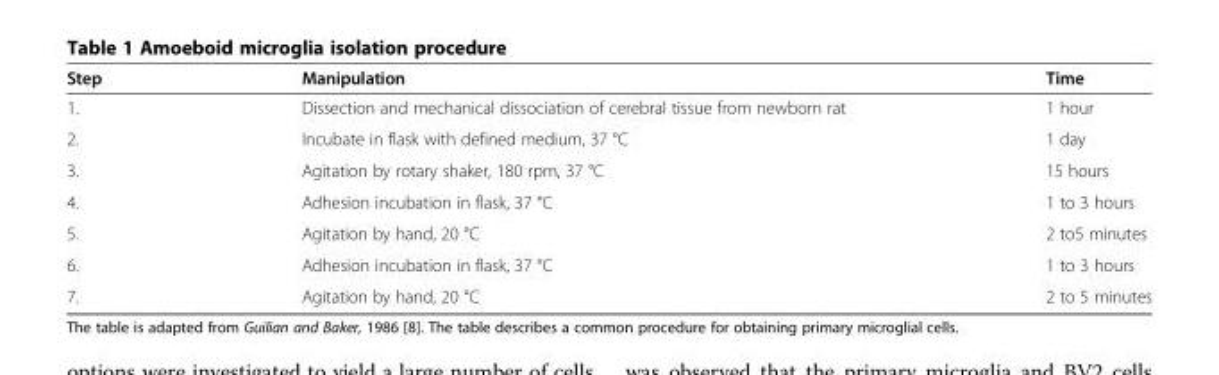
<table><thead><tr><td>Step</td><td>Manipulation</td><td>Time</td></tr></thead><tbody><tr><td>1.</td><td>Dissection and mechanical dissociation of cerebral tissue from newborn rat</td><td>1 hour</td></tr><tr><td>2.</td><td>Incubate in flask with defined medium, 37 °C</td><td>1 day</td></tr><tr><td>3.</td><td>Agitation by rotary shaker, 180 rpm, 37 °C</td><td>15 hours</td></tr><tr><td>4.</td><td>Adhesion incubation in flask, 37 °C</td><td>1 to 3 hours</td></tr><tr><td>5.</td><td>Agitation by hand, 20 °C</td><td>2 to5 minutes</td></tr><tr><td>6.</td><td>Adhesion incubation in flask, 37 °C</td><td>1 to 3 hours</td></tr><tr><td>7.</td><td>Agitation by hand, 20 °C</td><td>2 to 5 minutes</td></tr></tbody></table>